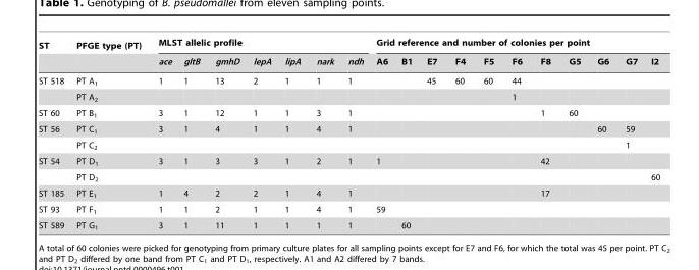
<table><thead><tr><td rowspan="2">ST</td><td rowspan="2">PFGE type (PT)</td><td colspan="7">MLST allelic profile</td><td colspan="11">Grid reference and number of colonies per point</td></tr><tr><td>ace</td><td>gltB</td><td>gmhD</td><td>lepA</td><td>lipA</td><td>nark</td><td>ndh</td><td>A6</td><td>B1</td><td>E7</td><td>F4</td><td>F5</td><td>F6</td><td>F8</td><td>G5</td><td>G6</td><td>G7</td><td>I2</td></tr></thead><tbody><tr><td rowspan="2">ST 518</td><td>PT A<sub>1</sub></td><td>1</td><td>1</td><td>13</td><td>2</td><td>1</td><td>1</td><td>1</td><td></td><td></td><td>45</td><td>60</td><td>60</td><td>44</td><td></td><td></td><td></td><td></td><td></td></tr><tr><td>PT A<sub>2</sub></td><td></td><td></td><td></td><td></td><td></td><td></td><td></td><td></td><td></td><td></td><td></td><td></td><td>1</td><td></td><td></td><td></td><td></td><td></td></tr><tr><td>ST 60</td><td>PT B<sub>1</sub></td><td>3</td><td>1</td><td>12</td><td>1</td><td>1</td><td>3</td><td>1</td><td></td><td></td><td></td><td></td><td></td><td></td><td>1</td><td>60</td><td></td><td></td><td></td></tr><tr><td rowspan="2">ST 56</td><td>PT C<sub>1</sub></td><td>3</td><td>1</td><td>4</td><td>1</td><td>1</td><td>4</td><td>1</td><td></td><td></td><td></td><td></td><td></td><td></td><td></td><td></td><td>60</td><td>59</td><td></td></tr><tr><td>PT C<sub>2</sub></td><td></td><td></td><td></td><td></td><td></td><td></td><td></td><td></td><td></td><td></td><td></td><td></td><td></td><td></td><td></td><td></td><td>1</td><td></td></tr><tr><td rowspan="2">ST 54</td><td>PT D<sub>1</sub></td><td>3</td><td>1</td><td>3</td><td>3</td><td>1</td><td>2</td><td>1</td><td>1</td><td></td><td></td><td></td><td></td><td></td><td>42</td><td></td><td></td><td></td><td></td></tr><tr><td>PT D<sub>2</sub></td><td></td><td></td><td></td><td></td><td></td><td></td><td></td><td></td><td></td><td></td><td></td><td></td><td></td><td></td><td></td><td></td><td></td><td>60</td></tr><tr><td>ST 185</td><td>PT E<sub>1</sub></td><td>1</td><td>4</td><td>2</td><td>2</td><td>1</td><td>4</td><td>1</td><td></td><td></td><td></td><td></td><td></td><td></td><td>17</td><td></td><td></td><td></td><td></td></tr><tr><td>ST 93</td><td>PT F<sub>1</sub></td><td>1</td><td>1</td><td>2</td><td>1</td><td>1</td><td>4</td><td>1</td><td>59</td><td></td><td></td><td></td><td></td><td></td><td></td><td></td><td></td><td></td><td></td></tr><tr><td>ST 589</td><td>PT G<sub>1</sub></td><td>3</td><td>1</td><td>11</td><td>1</td><td>1</td><td>1</td><td>1</td><td></td><td>60</td><td></td><td></td><td></td><td></td><td></td><td></td><td></td><td></td><td></td></tr></tbody></table>